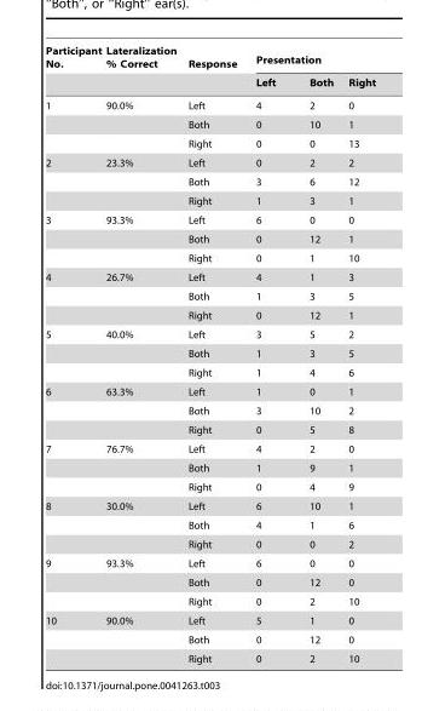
<table><thead><tr><td rowspan="2">Participant No.</td><td rowspan="2">Lateralization % Correct</td><td rowspan="2">Response</td><td colspan="3">Presentation</td></tr><tr><td>Left</td><td>Both</td><td>Right</td></tr></thead><tbody><tr><td rowspan="3">1</td><td>90.0%</td><td>Left</td><td>4</td><td>2</td><td>0</td></tr><tr><td></td><td>Both</td><td>0</td><td>10</td><td>1</td></tr><tr><td></td><td>Right</td><td>0</td><td>0</td><td>13</td></tr><tr><td rowspan="3">2</td><td>23.3%</td><td>Left</td><td>0</td><td>2</td><td>2</td></tr><tr><td></td><td>Both</td><td>3</td><td>6</td><td>12</td></tr><tr><td></td><td>Right</td><td>1</td><td>3</td><td>1</td></tr><tr><td rowspan="3">3</td><td>93.3%</td><td>Left</td><td>6</td><td>0</td><td>0</td></tr><tr><td></td><td>Both</td><td>0</td><td>12</td><td>1</td></tr><tr><td></td><td>Right</td><td>0</td><td>1</td><td>10</td></tr><tr><td rowspan="3">4</td><td>26.7%</td><td>Left</td><td>4</td><td>1</td><td>3</td></tr><tr><td></td><td>Both</td><td>1</td><td>3</td><td>5</td></tr><tr><td></td><td>Right</td><td>0</td><td>12</td><td>1</td></tr><tr><td rowspan="3">5</td><td>40.0%</td><td>Left</td><td>3</td><td>5</td><td>2</td></tr><tr><td></td><td>Both</td><td>1</td><td>3</td><td>5</td></tr><tr><td></td><td>Right</td><td>1</td><td>4</td><td>6</td></tr><tr><td rowspan="3">6</td><td>63.3%</td><td>Left</td><td>1</td><td>0</td><td>1</td></tr><tr><td></td><td>Both</td><td>3</td><td>10</td><td>2</td></tr><tr><td></td><td>Right</td><td>0</td><td>5</td><td>8</td></tr><tr><td rowspan="3">7</td><td>76.7%</td><td>Left</td><td>4</td><td>2</td><td>0</td></tr><tr><td></td><td>Both</td><td>1</td><td>9</td><td>1</td></tr><tr><td></td><td>Right</td><td>0</td><td>4</td><td>9</td></tr><tr><td rowspan="3">8</td><td>30.0%</td><td>Left</td><td>6</td><td>10</td><td>1</td></tr><tr><td></td><td>Both</td><td>4</td><td>1</td><td>6</td></tr><tr><td></td><td>Right</td><td>0</td><td>0</td><td>2</td></tr><tr><td rowspan="3">9</td><td>93.3%</td><td>Left</td><td>6</td><td>0</td><td>0</td></tr><tr><td></td><td>Both</td><td>0</td><td>12</td><td>0</td></tr><tr><td></td><td>Right</td><td>0</td><td>2</td><td>10</td></tr><tr><td rowspan="3">10</td><td>90.0%</td><td>Left</td><td>5</td><td>1</td><td>0</td></tr><tr><td></td><td>Both</td><td>0</td><td>12</td><td>0</td></tr><tr><td></td><td>Right</td><td>0</td><td>2</td><td>10</td></tr></tbody></table>